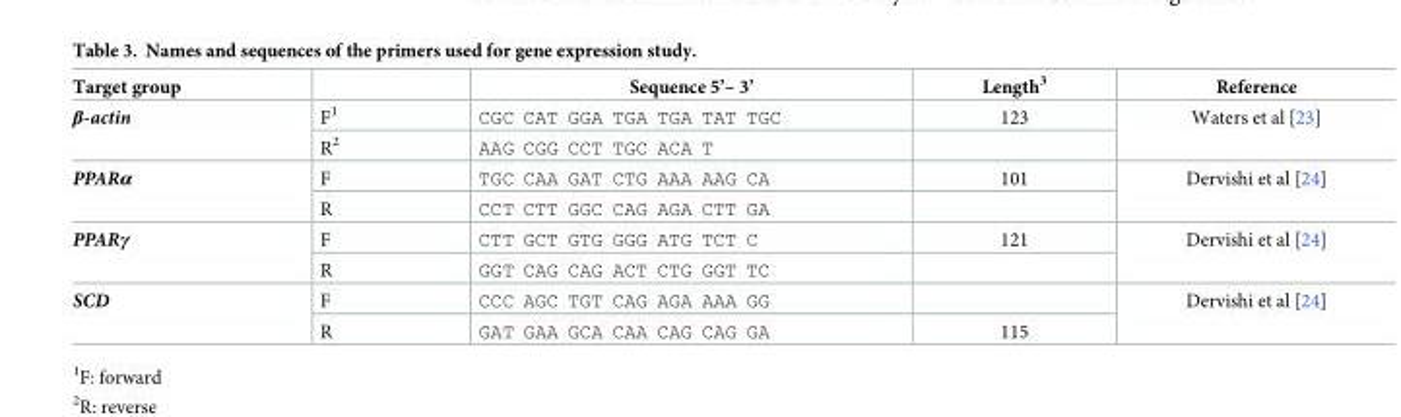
<table><thead><tr><td>Target group</td><td></td><td>Sequence 5’– 3’</td><td>Length<sup>3</sup></td><td>Reference</td></tr></thead><tbody><tr><td rowspan="2">β-actin</td><td>F<sup>1</sup></td><td>CGC CAT GGA TGA TGA TAT TGC</td><td>123</td><td rowspan="2">Waters et al [23]</td></tr><tr><td>R<sup>2</sup></td><td>AAG CGG CCT TGC ACA T</td><td></td></tr><tr><td rowspan="2">PPARα</td><td>F</td><td>TGC CAA GAT CTG AAA AAG CA</td><td>101</td><td rowspan="2">Dervishi et al [24]</td></tr><tr><td>R</td><td>CCT CTT GGC CAG AGA CTT GA</td><td></td></tr><tr><td rowspan="2">PPARγ</td><td>F</td><td>CTT GCT GTG GGG ATG TCT C</td><td>121</td><td rowspan="2">Dervishi et al [24]</td></tr><tr><td>R</td><td>GGT CAG CAG ACT CTG GGT TC</td><td></td></tr><tr><td rowspan="2">SCD</td><td>F</td><td>CCC AGC TGT CAG AGA AAA GG</td><td></td><td rowspan="2">Dervishi et al [24]</td></tr><tr><td>R</td><td>GAT GAA GCA CAA CAG CAG GA</td><td>115</td></tr></tbody></table>